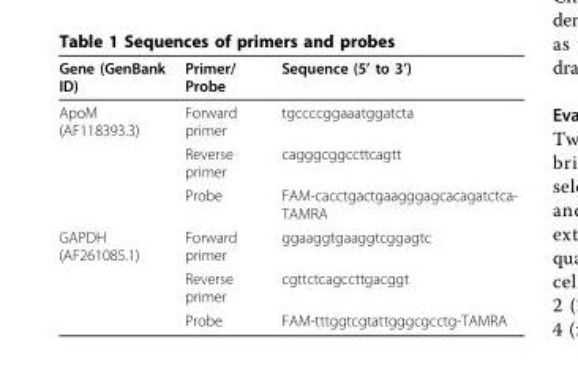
<table><thead><tr><td>Gene (GenBank ID)</td><td>Primer/ Probe</td><td>Sequence (5’ to 3’)</td></tr></thead><tbody><tr><td rowspan="3">ApoM (AF118393.3)</td><td>Forward primer</td><td>tgccccggaaatggatcta</td></tr><tr><td>Reverse primer</td><td>cagggcggccttcagtt</td></tr><tr><td>Probe</td><td>FAM-cacctgactgaagggagcacagatctca- TAMRA</td></tr><tr><td rowspan="3">GAPDH (AF261085.1)</td><td>Forward primer</td><td>ggaaggtgaaggtcggagtc</td></tr><tr><td>Reverse primer</td><td>cgttctcagccttgacggt</td></tr><tr><td>Probe</td><td>FAM-tttggtcgtattgggcgcctg-TAMRA</td></tr></tbody></table>